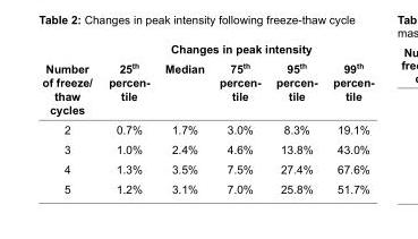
<table><thead><tr><td rowspan="2">Number of freeze/ thaw cycles</td><td colspan="5">Changes in peak intensity</td></tr><tr><td>25th percen- tile</td><td>Median</td><td>75th percen- tile</td><td>95th percen- tile</td><td>99th percen- tile</td></tr></thead><tbody><tr><td>2</td><td>0.7%</td><td>1.7%</td><td>3.0%</td><td>8.3%</td><td>19.1%</td></tr><tr><td>3</td><td>1.0%</td><td>2.4%</td><td>4.6%</td><td>13.8%</td><td>43.0%</td></tr><tr><td>4</td><td>1.3%</td><td>3.5%</td><td>7.5%</td><td>27.4%</td><td>67.6%</td></tr><tr><td>5</td><td>1.2%</td><td>3.1%</td><td>7.0%</td><td>25.8%</td><td>51.7%</td></tr></tbody></table>